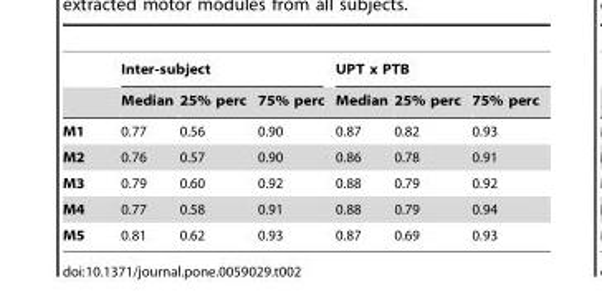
<table><thead><tr><td rowspan="2"></td><td colspan="3">Inter-subject</td><td colspan="3">UPT x PTB</td></tr><tr><td>Median</td><td>25% perc</td><td>75% perc</td><td>Median</td><td>25% perc</td><td>75% perc</td></tr></thead><tbody><tr><td>M1</td><td>0.77</td><td>0.56</td><td>0.90</td><td>0.87</td><td>0.82</td><td>0.93</td></tr><tr><td>M2</td><td>0.76</td><td>0.57</td><td>0.90</td><td>0.86</td><td>0.78</td><td>0.91</td></tr><tr><td>M3</td><td>0.79</td><td>0.60</td><td>0.92</td><td>0.88</td><td>0.79</td><td>0.92</td></tr><tr><td>M4</td><td>0.77</td><td>0.58</td><td>0.91</td><td>0.88</td><td>0.79</td><td>0.94</td></tr><tr><td>M5</td><td>0.81</td><td>0.62</td><td>0.93</td><td>0.87</td><td>0.69</td><td>0.93</td></tr></tbody></table>